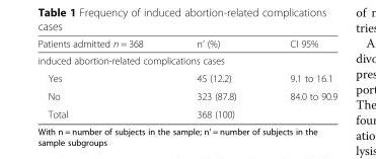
<table><thead><tr><td>Patients admitted n = 368</td><td>n’ (%)</td><td>CI 95%</td></tr></thead><tbody><tr><td colspan="3">induced abortion-related complications cases</td></tr><tr><td>Yes</td><td>45 (12.2)</td><td>9.1 to 16.1</td></tr><tr><td>No</td><td>323 (87.8)</td><td>84.0 to 90.9</td></tr><tr><td>Total</td><td>368 (100)</td><td></td></tr></tbody></table>